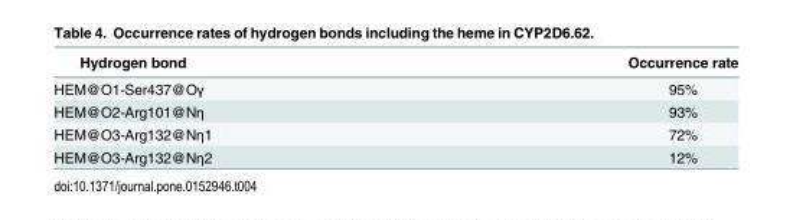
<table><thead><tr><td>Hydrogen bond</td><td>Occurrence rate</td></tr></thead><tbody><tr><td>HEM@O1-Ser437@Oγ</td><td>95%</td></tr><tr><td>HEM@O2-Arg101@Nη</td><td>93%</td></tr><tr><td>HEM@O3-Arg132@Nη1</td><td>72%</td></tr><tr><td>HEM@O3-Arg132@Nη2</td><td>12%</td></tr></tbody></table>